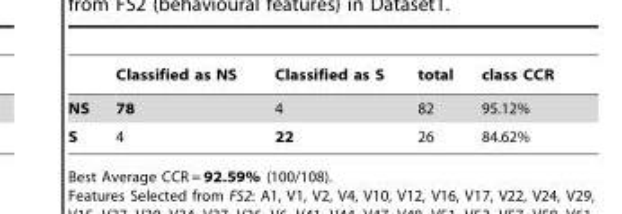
<table><thead><tr><td></td><td>Classified as NS</td><td>Classified as S</td><td>total</td><td>class CCR</td></tr></thead><tbody><tr><td>NS</td><td>78</td><td>4</td><td>82</td><td>95.12%</td></tr><tr><td>S</td><td>4</td><td>22</td><td>26</td><td>84.62%</td></tr></tbody></table>